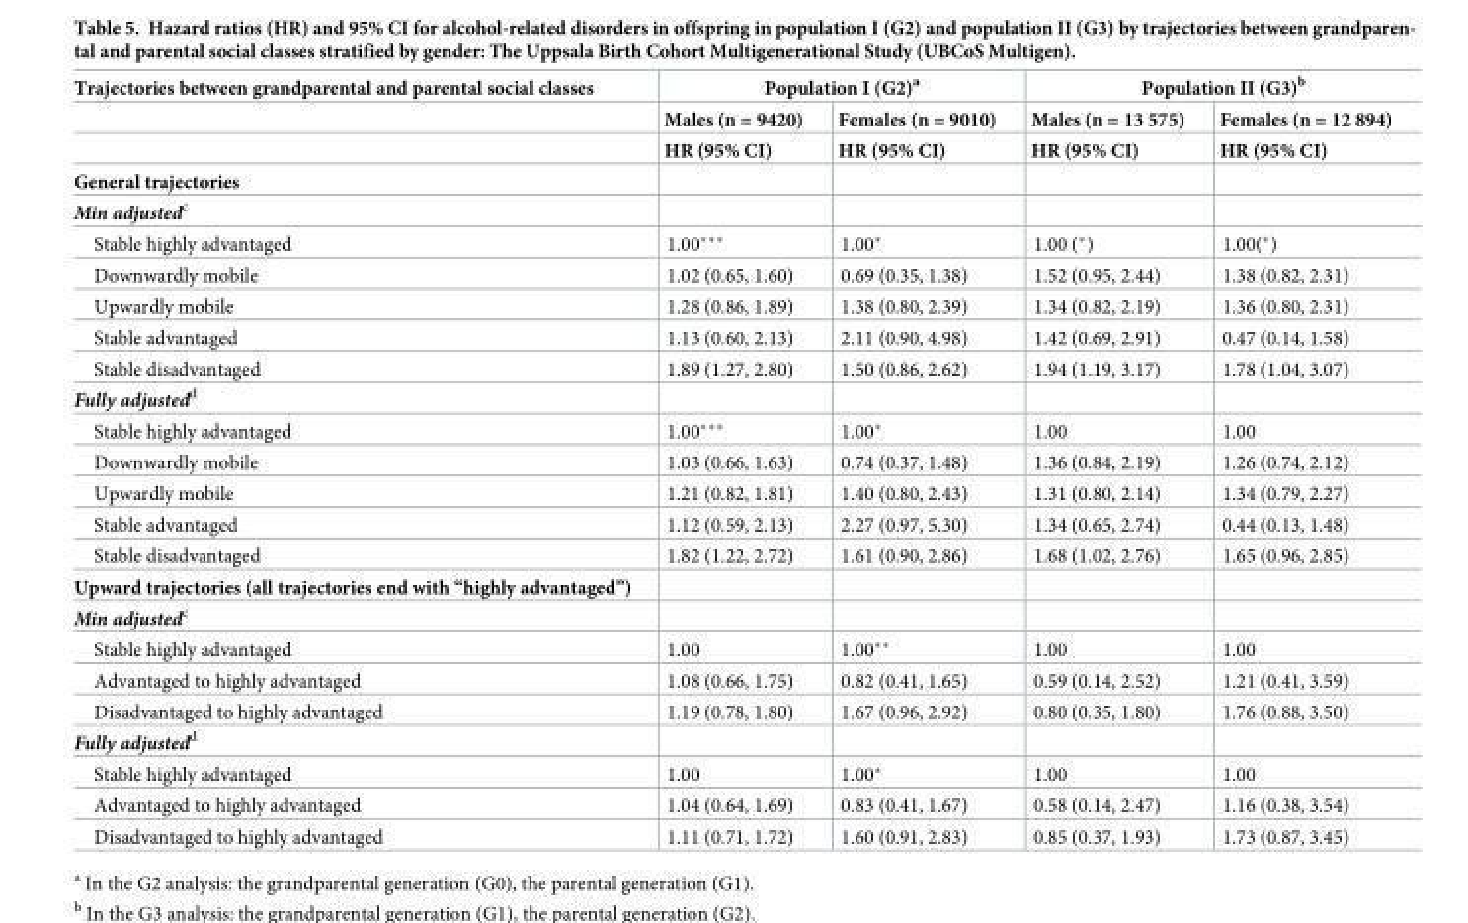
<table><thead><tr><td rowspan="3">Trajectories between grandparental and parental social classes</td><td colspan="2">Population I (G2)<sup>a</sup></td><td colspan="2">Population II (G3)<sup>b</sup></td></tr><tr><td rowspan="2">Males (n = 9420) HR (95% CI)</td><td rowspan="2">Females (n = 9010) HR (95% CI)</td><td rowspan="2">Males (n = 13 575) HR (95% CI)</td><td rowspan="2">Females (n = 12 894) HR (95% CI)</td></tr><tr></tr></thead><tbody><tr><td colspan="5">General trajectories</td></tr><tr><td colspan="5">Min adjusted<sup>c</sup></td></tr><tr><td>Stable highly advantaged</td><td>1.00***</td><td>1.00*</td><td>1.00 (*)</td><td>1.00(*)</td></tr><tr><td>Downwardly mobile</td><td>1.02 (0.65, 1.60)</td><td>0.69 (0.35, 1.38)</td><td>1.52 (0.95, 2.44)</td><td>1.38 (0.82, 2.31)</td></tr><tr><td>Upwardly mobile</td><td>1.28 (0.86, 1.89)</td><td>1.38 (0.80, 2.39)</td><td>1.34 (0.82, 2.19)</td><td>1.36 (0.80, 2.31)</td></tr><tr><td>Stable advantaged</td><td>1.13 (0.60, 2.13)</td><td>2.11 (0.90, 4.98)</td><td>1.42 (0.69, 2.91)</td><td>0.47 (0.14, 1.58)</td></tr><tr><td>Stable disadvantaged</td><td>1.89 (1.27, 2.80)</td><td>1.50 (0.86, 2.62)</td><td>1.94 (1.19, 3.17)</td><td>1.78 (1.04, 3.07)</td></tr><tr><td colspan="5">Fully adjusted<sup>d</sup></td></tr><tr><td>Stable highly advantaged</td><td>1.00***</td><td>1.00*</td><td>1.00</td><td>1.00</td></tr><tr><td>Downwardly mobile</td><td>1.03 (0.66, 1.63)</td><td>0.74 (0.37, 1.48)</td><td>1.36 (0.84, 2.19)</td><td>1.26 (0.74, 2.12)</td></tr><tr><td>Upwardly mobile</td><td>1.21 (0.82, 1.81)</td><td>1.40 (0.80, 2.43)</td><td>1.31 (0.80, 2.14)</td><td>1.34 (0.79, 2.27)</td></tr><tr><td>Stable advantaged</td><td>1.12 (0.59, 2.13)</td><td>2.27 (0.97, 5.30)</td><td>1.34 (0.65, 2.74)</td><td>0.44 (0.13, 1.48)</td></tr><tr><td>Stable disadvantaged</td><td>1.82 (1.22, 2.72)</td><td>1.61 (0.90, 2.86)</td><td>1.68 (1.02, 2.76)</td><td>1.65 (0.96, 2.85)</td></tr><tr><td colspan="5">Upward trajectories (all trajectories end with “highly advantaged”)</td></tr><tr><td colspan="5">Min adjusted<sup>c</sup></td></tr><tr><td>Stable highly advantaged</td><td>1.00</td><td>1.00**</td><td>1.00</td><td>1.00</td></tr><tr><td>Advantaged to highly advantaged</td><td>1.08 (0.66, 1.75)</td><td>0.82 (0.41, 1.65)</td><td>0.59 (0.14, 2.52)</td><td>1.21 (0.41, 3.59)</td></tr><tr><td>Disadvantaged to highly advantaged</td><td>1.19 (0.78, 1.80)</td><td>1.67 (0.96, 2.92)</td><td>0.80 (0.35, 1.80)</td><td>1.76 (0.88, 3.50)</td></tr><tr><td colspan="5">Fully adjusted<sup>d</sup></td></tr><tr><td>Stable highly advantaged</td><td>1.00</td><td>1.00*</td><td>1.00</td><td>1.00</td></tr><tr><td>Advantaged to highly advantaged</td><td>1.04 (0.64, 1.69)</td><td>0.83 (0.41, 1.67)</td><td>0.58 (0.14, 2.47)</td><td>1.16 (0.38, 3.54)</td></tr><tr><td>Disadvantaged to highly advantaged</td><td>1.11 (0.71, 1.72)</td><td>1.60 (0.91, 2.83)</td><td>0.85 (0.37, 1.93)</td><td>1.73 (0.87, 3.45)</td></tr></tbody></table>